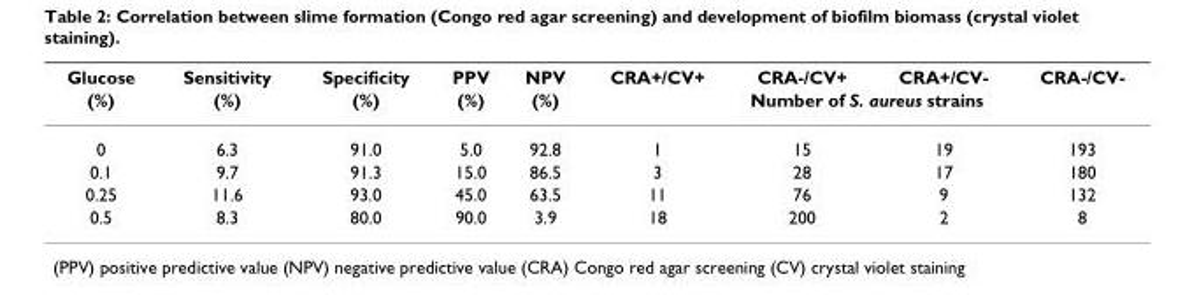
<table><thead><tr><td rowspan="2">Glucose (%)</td><td rowspan="2">Sensitivity (%)</td><td rowspan="2">Specificity (%)</td><td rowspan="2">PPV (%)</td><td rowspan="2">NPV (%)</td><td>CRA+/CV+</td><td>CRA-/CV+</td><td>CRA+/CV-</td><td>CRA-/CV-</td></tr><tr><td colspan="4">Number of S. aureus strains</td></tr></thead><tbody><tr><td>0</td><td>6.3</td><td>91.0</td><td>5.0</td><td>92.8</td><td>1</td><td>15</td><td>19</td><td>193</td></tr><tr><td>0.1</td><td>9.7</td><td>91.3</td><td>15.0</td><td>86.5</td><td>3</td><td>28</td><td>17</td><td>180</td></tr><tr><td>0.25</td><td>11.6</td><td>93.0</td><td>45.0</td><td>63.5</td><td>11</td><td>76</td><td>9</td><td>132</td></tr><tr><td>0.5</td><td>8.3</td><td>80.0</td><td>90.0</td><td>3.9</td><td>18</td><td>200</td><td>2</td><td>8</td></tr></tbody></table>